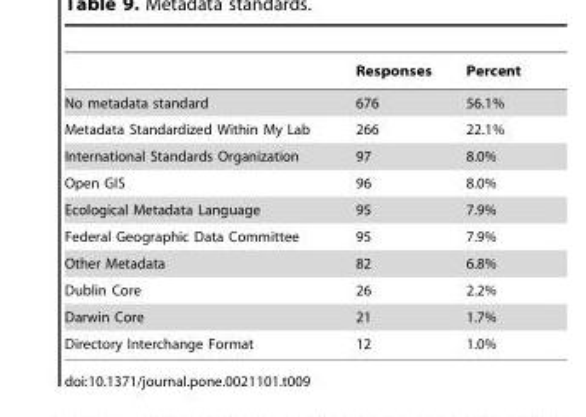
<table><thead><tr><td></td><td>Responses</td><td>Percent</td></tr></thead><tbody><tr><td>No metadata standard</td><td>676</td><td>56.1%</td></tr><tr><td>Metadata Standardized Within My Lab</td><td>266</td><td>22.1%</td></tr><tr><td>International Standards Organization</td><td>97</td><td>8.0%</td></tr><tr><td>Open GIS</td><td>96</td><td>8.0%</td></tr><tr><td>Ecological Metadata Language</td><td>95</td><td>7.9%</td></tr><tr><td>Federal Geographic Data Committee</td><td>95</td><td>7.9%</td></tr><tr><td>Other Metadata</td><td>82</td><td>6.8%</td></tr><tr><td>Dublin Core</td><td>26</td><td>2.2%</td></tr><tr><td>Darwin Core</td><td>21</td><td>1.7%</td></tr><tr><td>Directory Interchange Format</td><td>12</td><td>1.0%</td></tr></tbody></table>